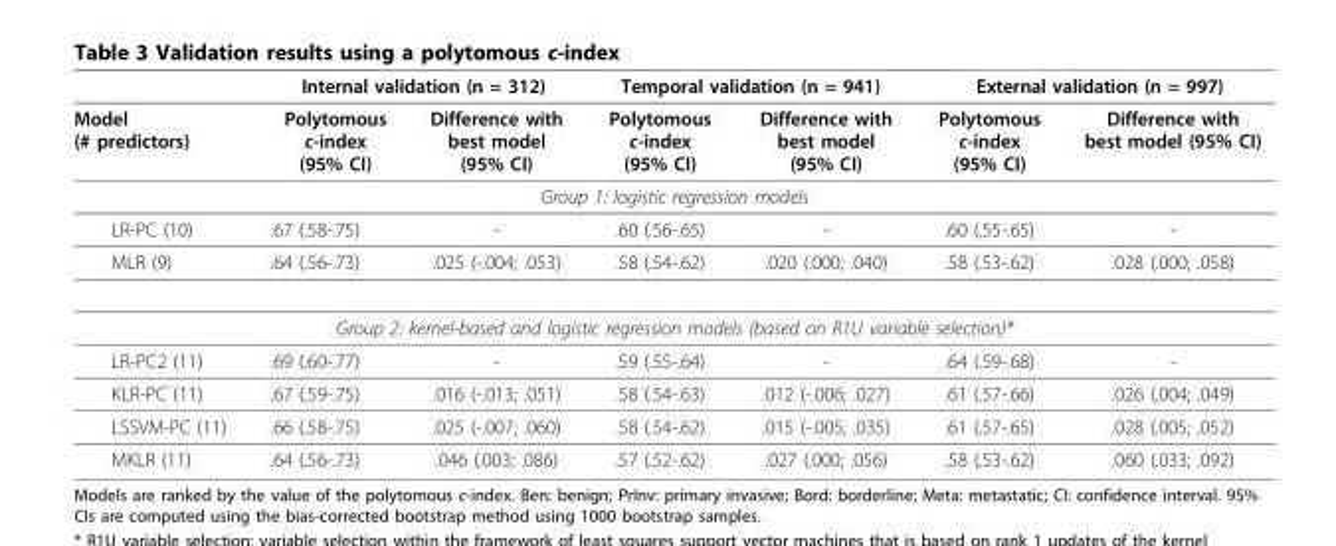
<table><thead><tr><td rowspan="2">Model (# predictors)</td><td colspan="2">Internal validation (n = 312)</td><td colspan="2">Temporal validation (n = 941)</td><td colspan="2">External validation (n = 997)</td></tr><tr><td>Polytomous c-index (95% CI)</td><td>Difference with best model (95% CI)</td><td>Polytomous c-index (95% CI)</td><td>Difference with best model (95% CI)</td><td>Polytomous c-index (95% CI)</td><td>Difference with best model (95% CI)</td></tr></thead><tbody><tr><td colspan="7">Group 1: logistic regression models</td></tr><tr><td>LR-PC (10)</td><td>.67 (.58-.75)</td><td>-</td><td>.60 (.56-.65)</td><td>-</td><td>.60 (.55-.65)</td><td>-</td></tr><tr><td>MLR (9)</td><td>.64 (.56-.73)</td><td>.025 (-.004; .053)</td><td>.58 (.54-.62)</td><td>.020 (.000; .040)</td><td>.58 (.53-.62)</td><td>.028 (.000; .058)</td></tr><tr><td colspan="7">Group 2: kernel-based and logistic regression models (based on R1U variable selection)*</td></tr><tr><td>LR-PC2 (11)</td><td>.69 (.60-.77)</td><td>-</td><td>.59 (.55-.64)</td><td>-</td><td>.64 (.59-.68)</td><td>-</td></tr><tr><td>KLR-PC (11)</td><td>.67 (.59-.75)</td><td>.016 (-.013; .051)</td><td>.58 (.54-.63)</td><td>.012 (-.006; .027)</td><td>.61 (.57-.66)</td><td>.026 (.004; .049)</td></tr><tr><td>LSSVM-PC (11)</td><td>.66 (.58-.75)</td><td>.025 (-.007; .060)</td><td>.58 (.54-.62)</td><td>.015 (-.005; .035)</td><td>.61 (.57-.65)</td><td>.028 (.005; .052)</td></tr><tr><td>MKLR (11)</td><td>.64 (.56-.73)</td><td>.046 (.003; .086)</td><td>.57 (.52-.62)</td><td>.027 (.000; .056)</td><td>.58 (.53-.62)</td><td>.060 (.033; .092)</td></tr></tbody></table>